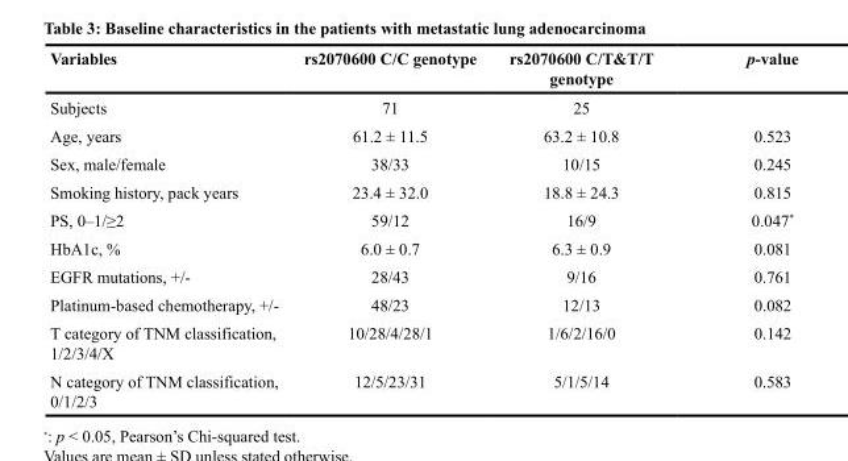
<table><thead><tr><td>Variables</td><td>rs2070600 C/C genotype</td><td>rs2070600 C/T&amp;T/T genotype</td><td>p-value</td></tr></thead><tbody><tr><td>Subjects</td><td>71</td><td>25</td><td></td></tr><tr><td>Age, years</td><td>61.2 ± 11.5</td><td>63.2 ± 10.8</td><td>0.523</td></tr><tr><td>Sex, male/female</td><td>38/33</td><td>10/15</td><td>0.245</td></tr><tr><td>Smoking history, pack years</td><td>23.4 ± 32.0</td><td>18.8 ± 24.3</td><td>0.815</td></tr><tr><td>PS, 0–1/≥2</td><td>59/12</td><td>16/9</td><td>0.047*</td></tr><tr><td>HbA1c, %</td><td>6.0 ± 0.7</td><td>6.3 ± 0.9</td><td>0.081</td></tr><tr><td>EGFR mutations, +/-</td><td>28/43</td><td>9/16</td><td>0.761</td></tr><tr><td>Platinum-based chemotherapy, +/-</td><td>48/23</td><td>12/13</td><td>0.082</td></tr><tr><td>T category of TNM classification, 1/2/3/4/X</td><td>10/28/4/28/1</td><td>1/6/2/16/0</td><td>0.142</td></tr><tr><td>N category of TNM classification, 0/1/2/3</td><td>12/5/23/31</td><td>5/1/5/14</td><td>0.583</td></tr></tbody></table>